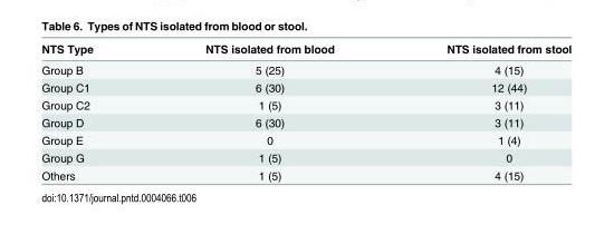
<table><thead><tr><td>NTS Type</td><td>NTS isolated from blood</td><td>NTS isolated from stool</td></tr></thead><tbody><tr><td>Group B</td><td>5 (25)</td><td>4 (15)</td></tr><tr><td>Group C1</td><td>6 (30)</td><td>12 (44)</td></tr><tr><td>Group C2</td><td>1 (5)</td><td>3 (11)</td></tr><tr><td>Group D</td><td>6 (30)</td><td>3 (11)</td></tr><tr><td>Group E</td><td>0</td><td>1 (4)</td></tr><tr><td>Group G</td><td>1 (5)</td><td>0</td></tr><tr><td>Others</td><td>1 (5)</td><td>4 (15)</td></tr></tbody></table>